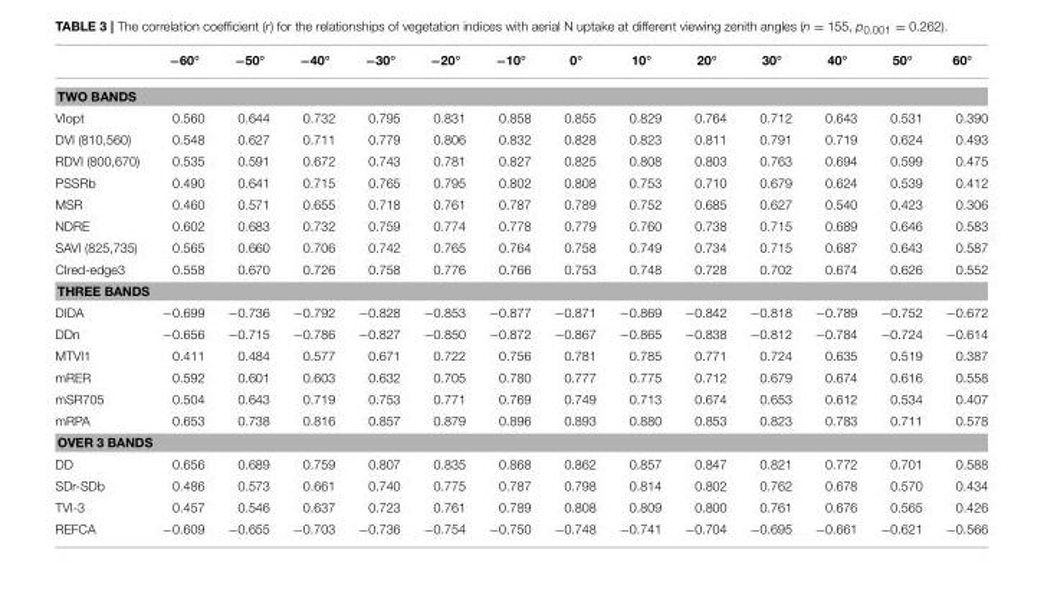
<table><thead><tr><td></td><td>−60◦</td><td>−50◦</td><td>−40◦</td><td>−30◦</td><td>−20◦</td><td>−10◦</td><td>0◦</td><td>10◦</td><td>20◦</td><td>30◦</td><td>40◦</td><td>50◦</td><td>60◦</td></tr></thead><tbody><tr><td colspan="14">TWO BANDS</td></tr><tr><td>VIopt</td><td>0.560</td><td>0.644</td><td>0.732</td><td>0.795</td><td>0.831</td><td>0.858</td><td>0.855</td><td>0.829</td><td>0.764</td><td>0.712</td><td>0.643</td><td>0.531</td><td>0.390</td></tr><tr><td>DVI (810,560)</td><td>0.548</td><td>0.627</td><td>0.711</td><td>0.779</td><td>0.806</td><td>0.832</td><td>0.828</td><td>0.823</td><td>0.811</td><td>0.791</td><td>0.719</td><td>0.624</td><td>0.493</td></tr><tr><td>RDVI (800,670)</td><td>0.535</td><td>0.591</td><td>0.672</td><td>0.743</td><td>0.781</td><td>0.827</td><td>0.825</td><td>0.808</td><td>0.803</td><td>0.763</td><td>0.694</td><td>0.599</td><td>0.475</td></tr><tr><td>PSSRb</td><td>0.490</td><td>0.641</td><td>0.715</td><td>0.765</td><td>0.795</td><td>0.802</td><td>0.808</td><td>0.753</td><td>0.710</td><td>0.679</td><td>0.624</td><td>0.539</td><td>0.412</td></tr><tr><td>MSR</td><td>0.460</td><td>0.571</td><td>0.655</td><td>0.718</td><td>0.761</td><td>0.787</td><td>0.789</td><td>0.752</td><td>0.685</td><td>0.627</td><td>0.540</td><td>0.423</td><td>0.306</td></tr><tr><td>NDRE</td><td>0.602</td><td>0.683</td><td>0.732</td><td>0.759</td><td>0.774</td><td>0.778</td><td>0.779</td><td>0.760</td><td>0.738</td><td>0.715</td><td>0.689</td><td>0.646</td><td>0.583</td></tr><tr><td>SAVI (825,735)</td><td>0.565</td><td>0.660</td><td>0.706</td><td>0.742</td><td>0.765</td><td>0.764</td><td>0.758</td><td>0.749</td><td>0.734</td><td>0.715</td><td>0.687</td><td>0.643</td><td>0.587</td></tr><tr><td>CIred-edge3</td><td>0.558</td><td>0.670</td><td>0.726</td><td>0.758</td><td>0.776</td><td>0.766</td><td>0.753</td><td>0.748</td><td>0.728</td><td>0.702</td><td>0.674</td><td>0.626</td><td>0.552</td></tr><tr><td colspan="14">THREE BANDS</td></tr><tr><td>DIDA</td><td>−0.699</td><td>−0.736</td><td>−0.792</td><td>−0.828</td><td>−0.853</td><td>−0.877</td><td>−0.871</td><td>−0.869</td><td>−0.842</td><td>−0.818</td><td>−0.789</td><td>−0.752</td><td>−0.672</td></tr><tr><td>DDn</td><td>−0.656</td><td>−0.715</td><td>−0.786</td><td>−0.827</td><td>−0.850</td><td>−0.872</td><td>−0.867</td><td>−0.865</td><td>−0.838</td><td>−0.812</td><td>−0.784</td><td>−0.724</td><td>−0.614</td></tr><tr><td>MTVI1</td><td>0.411</td><td>0.484</td><td>0.577</td><td>0.671</td><td>0.722</td><td>0.756</td><td>0.781</td><td>0.785</td><td>0.771</td><td>0.724</td><td>0.635</td><td>0.519</td><td>0.387</td></tr><tr><td>mRER</td><td>0.592</td><td>0.601</td><td>0.603</td><td>0.632</td><td>0.705</td><td>0.780</td><td>0.777</td><td>0.775</td><td>0.712</td><td>0.679</td><td>0.674</td><td>0.616</td><td>0.558</td></tr><tr><td>mSR705</td><td>0.504</td><td>0.643</td><td>0.719</td><td>0.753</td><td>0.771</td><td>0.769</td><td>0.749</td><td>0.713</td><td>0.674</td><td>0.653</td><td>0.612</td><td>0.534</td><td>0.407</td></tr><tr><td>mRPA</td><td>0.653</td><td>0.738</td><td>0.816</td><td>0.857</td><td>0.879</td><td>0.896</td><td>0.893</td><td>0.880</td><td>0.853</td><td>0.823</td><td>0.783</td><td>0.711</td><td>0.578</td></tr><tr><td colspan="14">OVER 3 BANDS</td></tr><tr><td>DD</td><td>0.656</td><td>0.689</td><td>0.759</td><td>0.807</td><td>0.835</td><td>0.868</td><td>0.862</td><td>0.857</td><td>0.847</td><td>0.821</td><td>0.772</td><td>0.701</td><td>0.588</td></tr><tr><td>SDr-SDb</td><td>0.486</td><td>0.573</td><td>0.661</td><td>0.740</td><td>0.775</td><td>0.787</td><td>0.798</td><td>0.814</td><td>0.802</td><td>0.762</td><td>0.678</td><td>0.570</td><td>0.434</td></tr><tr><td>TVI-3</td><td>0.457</td><td>0.546</td><td>0.637</td><td>0.723</td><td>0.761</td><td>0.789</td><td>0.808</td><td>0.809</td><td>0.800</td><td>0.761</td><td>0.676</td><td>0.565</td><td>0.426</td></tr><tr><td>REFCA</td><td>−0.609</td><td>−0.655</td><td>−0.703</td><td>−0.736</td><td>−0.754</td><td>−0.750</td><td>−0.748</td><td>−0.741</td><td>−0.704</td><td>−0.695</td><td>−0.661</td><td>−0.621</td><td>−0.566</td></tr></tbody></table>